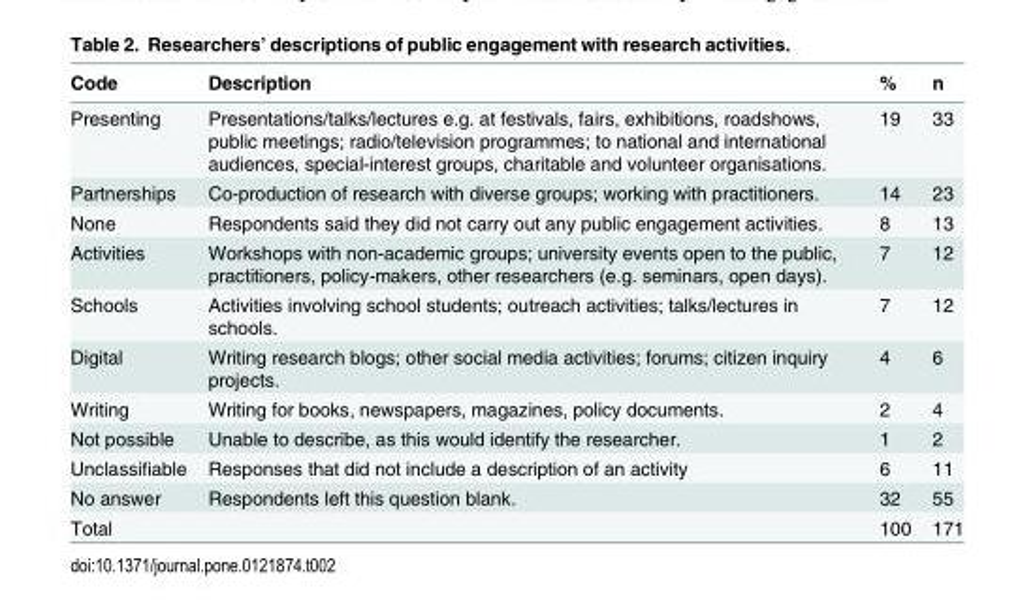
<table><thead><tr><td>Code</td><td>Description</td><td>%</td><td>n</td></tr></thead><tbody><tr><td>Presenting</td><td>Presentations/talks/lectures e.g. at festivals, fairs, exhibitions, roadshows, public meetings; radio/television programmes; to national and international audiences, special-interest groups, charitable and volunteer organisations.</td><td>19</td><td>33</td></tr><tr><td>Partnerships</td><td>Co-production of research with diverse groups; working with practitioners.</td><td>14</td><td>23</td></tr><tr><td>None</td><td>Respondents said they did not carry out any public engagement activities.</td><td>8</td><td>13</td></tr><tr><td>Activities</td><td>Workshops with non-academic groups; university events open to the public, practitioners, policy-makers, other researchers (e.g. seminars, open days).</td><td>7</td><td>12</td></tr><tr><td>Schools</td><td>Activities involving school students; outreach activities; talks/lectures in schools.</td><td>7</td><td>12</td></tr><tr><td>Digital</td><td>Writing research blogs; other social media activities; forums; citizen inquiry projects.</td><td>4</td><td>6</td></tr><tr><td>Writing</td><td>Writing for books, newspapers, magazines, policy documents.</td><td>2</td><td>4</td></tr><tr><td>Not possible</td><td>Unable to describe, as this would identify the researcher.</td><td>1</td><td>2</td></tr><tr><td>Unclassifiable</td><td>Responses that did not include a description of an activity</td><td>6</td><td>11</td></tr><tr><td>No answer</td><td>Respondents left this question blank.</td><td>32</td><td>55</td></tr><tr><td>Total</td><td></td><td>100</td><td>171</td></tr></tbody></table>